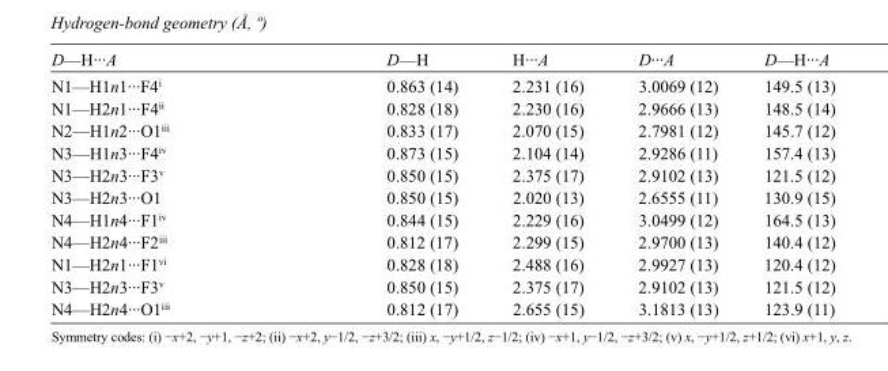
<table><tbody><tr><td>D—H···A</td><td>D—H</td><td>H···A</td><td>D···A</td><td>D—H···A</td></tr><tr><td>N1—H1n1···F4<sup>i</sup></td><td>0.863 (14)</td><td>2.231 (16)</td><td>3.0069 (12)</td><td>149.5 (13)</td></tr><tr><td>N1—H2n1···F4<sup>ii</sup></td><td>0.828 (18)</td><td>2.230 (16)</td><td>2.9666 (13)</td><td>148.5 (14)</td></tr><tr><td>N2—H1n2···O1<sup>iii</sup></td><td>0.833 (17)</td><td>2.070 (15)</td><td>2.7981 (12)</td><td>145.7 (12)</td></tr><tr><td>N3—H1n3···F4<sup>iv</sup></td><td>0.873 (15)</td><td>2.104 (14)</td><td>2.9286 (11)</td><td>157.4 (13)</td></tr><tr><td>N3—H2n3···F3<sup>v</sup></td><td>0.850 (15)</td><td>2.375 (17)</td><td>2.9102 (13)</td><td>121.5 (12)</td></tr><tr><td>N3—H2n3···O1</td><td>0.850 (15)</td><td>2.020 (13)</td><td>2.6555 (11)</td><td>130.9 (15)</td></tr><tr><td>N4—H1n4···F1<sup>iv</sup></td><td>0.844 (15)</td><td>2.229 (16)</td><td>3.0499 (12)</td><td>164.5 (13)</td></tr><tr><td>N4—H2n4···F2<sup>iii</sup></td><td>0.812 (17)</td><td>2.299 (15)</td><td>2.9700 (13)</td><td>140.4 (12)</td></tr><tr><td>N1—H2n1···F1<sup>vi</sup></td><td>0.828 (18)</td><td>2.488 (16)</td><td>2.9927 (13)</td><td>120.4 (12)</td></tr><tr><td>N3—H2n3···F3<sup>v</sup></td><td>0.850 (15)</td><td>2.375 (17)</td><td>2.9102 (13)</td><td>121.5 (12)</td></tr><tr><td>N4—H2n4···O1<sup>iii</sup></td><td>0.812 (17)</td><td>2.655 (15)</td><td>3.1813 (13)</td><td>123.9 (11)</td></tr></tbody></table>